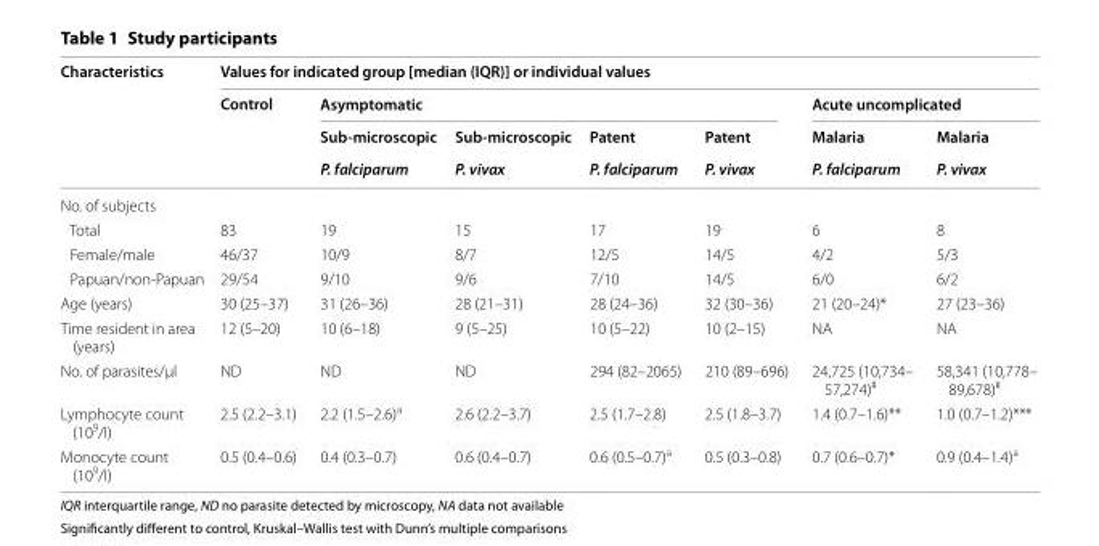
<table><thead><tr><td rowspan="4">Characteristics</td><td colspan="7">Values for indicated group [median (IQR)] or individual values</td></tr><tr><td rowspan="3">Control</td><td colspan="4">Asymptomatic</td><td colspan="2">Acute uncomplicated</td></tr><tr><td rowspan="2">Sub‑microscopic P. falciparum</td><td rowspan="2">Sub‑microscopic P. vivax</td><td rowspan="2">Patent P. falciparum</td><td rowspan="2">Patent P. vivax</td><td rowspan="2">Malaria P. falciparum</td><td rowspan="2">Malaria P. vivax</td></tr><tr></tr></thead><tbody><tr><td colspan="8">No. of subjects</td></tr><tr><td>Total</td><td>83</td><td>19</td><td>15</td><td>17</td><td>19</td><td>6</td><td>8</td></tr><tr><td>Female/male</td><td>46/37</td><td>10/9</td><td>8/7</td><td>12/5</td><td>14/5</td><td>4/2</td><td>5/3</td></tr><tr><td>Papuan/non-Papuan</td><td>29/54</td><td>9/10</td><td>9/6</td><td>7/10</td><td>14/5</td><td>6/0</td><td>6/2</td></tr><tr><td>Age (years)</td><td>30 (25–37)</td><td>31 (26–36)</td><td>28 (21–31)</td><td>28 (24–36)</td><td>32 (30–36)</td><td>21 (20–24)*</td><td>27 (23–36)</td></tr><tr><td>Time resident in area (years)</td><td>12 (5–20)</td><td>10 (6–18)</td><td>9 (5–25)</td><td>10 (5–22)</td><td>10 (2–15)</td><td>NA</td><td>NA</td></tr><tr><td>No. of parasites/µl</td><td>ND</td><td>ND</td><td>ND</td><td>294 (82–2065)</td><td>210 (89–696)</td><td>24,725 (10,734– 57,274)<sup>#</sup></td><td>58,341 (10,778– 89,678)<sup>#</sup></td></tr><tr><td>Lymphocyte count (10<sup>9</sup>/l)</td><td>2.5 (2.2–3.1)</td><td>2.2 (1.5–2.6)<sup>a</sup></td><td>2.6 (2.2–3.7)</td><td>2.5 (1.7–2.8)</td><td>2.5 (1.8–3.7)</td><td>1.4 (0.7–1.6)**</td><td>1.0 (0.7–1.2)***</td></tr><tr><td>Monocyte count (10<sup>9</sup>/l)</td><td>0.5 (0.4–0.6)</td><td>0.4 (0.3–0.7)</td><td>0.6 (0.4–0.7)</td><td>0.6 (0.5–0.7)<sup>a</sup></td><td>0.5 (0.3–0.8)</td><td>0.7 (0.6–0.7)*</td><td>0.9 (0.4–1.4)<sup>a</sup></td></tr></tbody></table>